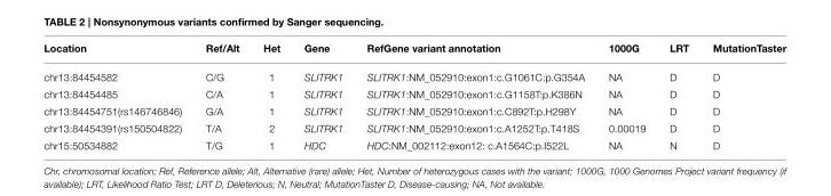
<table><thead><tr><td>Location</td><td>Ref/Alt</td><td>Het</td><td>Gene</td><td>RefGene variant annotation</td><td>1000G</td><td>LRT</td><td>MutationTaster</td></tr></thead><tbody><tr><td>chr13:84454582</td><td>C/G</td><td>1</td><td>SLITRK1</td><td>SLITRK1:NM_052910:exon1:c.G1061C:p.G354A</td><td>NA</td><td>D</td><td>D</td></tr><tr><td>chr13:84454485</td><td>C/A</td><td>1</td><td>SLITRK1</td><td>SLITRK1:NM_052910:exon1:c.G1158T:p.K386N</td><td>NA</td><td>D</td><td>D</td></tr><tr><td>chr13:84454751(rs146746846)</td><td>G/A</td><td>1</td><td>SLITRK1</td><td>SLITRK1:NM_052910:exon1:c.C892T:p.H298Y</td><td>NA</td><td>D</td><td>D</td></tr><tr><td>chr13:84454391(rs150504822)</td><td>T/A</td><td>2</td><td>SLITRK1</td><td>SLITRK1:NM_052910:exon1:c.A1252T:p.T418S</td><td>0.00019</td><td>D</td><td>D</td></tr><tr><td>chr15:50534882</td><td>T/G</td><td>1</td><td>HDC</td><td>HDC:NM_002112:exon12: c.A1564C:p.I522L</td><td>NA</td><td>N</td><td>D</td></tr></tbody></table>